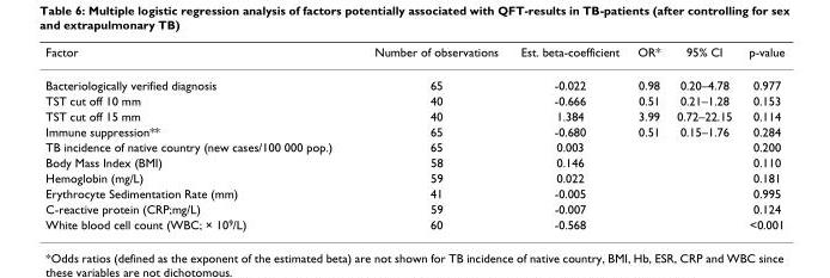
<table><thead><tr><td>Factor</td><td>Number of observations</td><td>Est. beta-coefficient</td><td>OR*</td><td>95% CI</td><td>p-value</td></tr></thead><tbody><tr><td>Bacteriologically verified diagnosis</td><td>65</td><td>-0.022</td><td>0.98</td><td>0.20–4.78</td><td>0.977</td></tr><tr><td>TST cut off 10 mm</td><td>40</td><td>-0.666</td><td>0.51</td><td>0.21–1.28</td><td>0.153</td></tr><tr><td>TST cut off 15 mm</td><td>40</td><td>1.384</td><td>3.99</td><td>0.72–22.15</td><td>0.114</td></tr><tr><td>Immune suppression**</td><td>65</td><td>-0.680</td><td>0.51</td><td>0.15–1.76</td><td>0.284</td></tr><tr><td>TB incidence of native country (new cases/100 000 pop.)</td><td>65</td><td>0.003</td><td></td><td></td><td>0.200</td></tr><tr><td>Body Mass Index (BMI)</td><td>58</td><td>0.146</td><td></td><td></td><td>0.110</td></tr><tr><td>Hemoglobin (mg/L)</td><td>59</td><td>0.022</td><td></td><td></td><td>0.181</td></tr><tr><td>Erythrocyte Sedimentation Rate (mm)</td><td>41</td><td>-0.005</td><td></td><td></td><td>0.995</td></tr><tr><td>C-reactive protein (CRP;mg/L)</td><td>59</td><td>-0.007</td><td></td><td></td><td>0.124</td></tr><tr><td>White blood cell count (WBC; × 10<sup>9</sup>/L)</td><td>60</td><td>-0.568</td><td></td><td></td><td>&lt;0.001</td></tr></tbody></table>